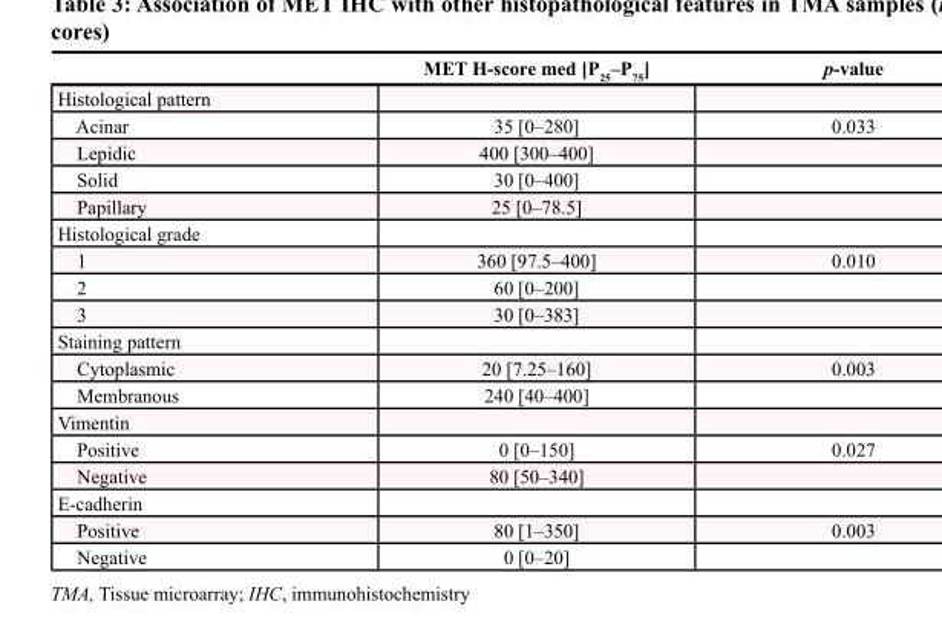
<table><thead><tr><td></td><td>MET H-score med [P<sub>25</sub>–P<sub>75</sub>]</td><td>p-value</td></tr></thead><tbody><tr><td colspan="3">Histological pattern</td></tr><tr><td>Acinar</td><td>35 [0–280]</td><td>0.033</td></tr><tr><td>Lepidic</td><td>400 [300–400]</td><td></td></tr><tr><td>Solid</td><td>30 [0–400]</td><td></td></tr><tr><td>Papillary</td><td>25 [0–78.5]</td><td></td></tr><tr><td colspan="3">Histological grade</td></tr><tr><td>1</td><td>360 [97.5–400]</td><td>0.010</td></tr><tr><td>2</td><td>60 [0–200]</td><td></td></tr><tr><td>3</td><td>30 [0–383]</td><td></td></tr><tr><td colspan="3">Staining pattern</td></tr><tr><td>Cytoplasmic</td><td>20 [7.25–160]</td><td>0.003</td></tr><tr><td>Membranous</td><td>240 [40–400]</td><td></td></tr><tr><td colspan="3">Vimentin</td></tr><tr><td>Positive</td><td>0 [0–150]</td><td>0.027</td></tr><tr><td>Negative</td><td>80 [50–340]</td><td></td></tr><tr><td colspan="3">E-cadherin</td></tr><tr><td>Positive</td><td>80 [1–350]</td><td>0.003</td></tr><tr><td>Negative</td><td>0 [0–20]</td><td></td></tr></tbody></table>